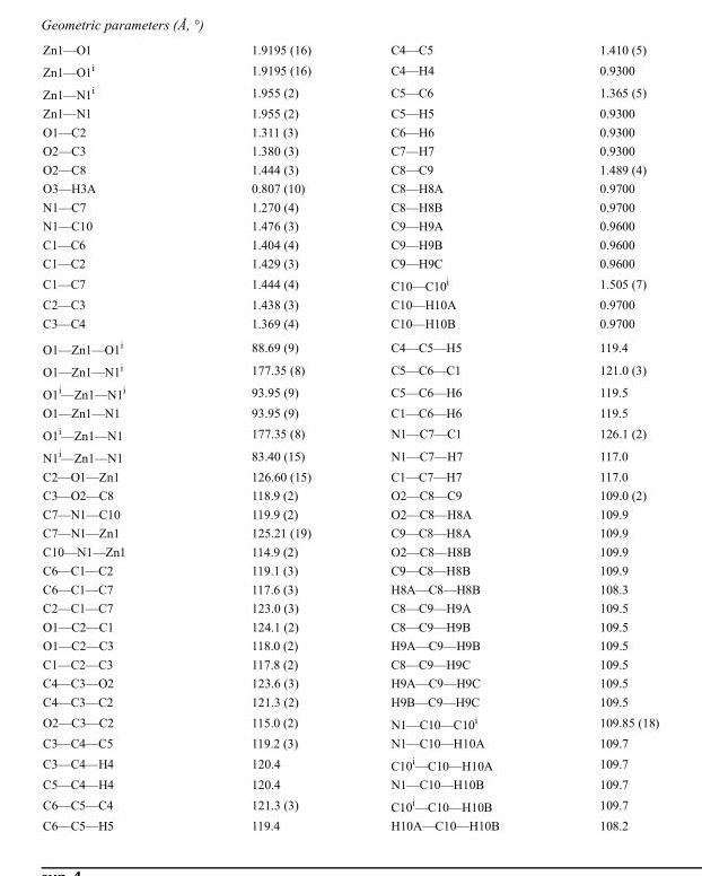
<table><tbody><tr><td>Zn1—O1</td><td>1.9195 (16)</td><td>C4—C5</td><td>1.410 (5)</td></tr><tr><td>Zn1—O1<sup>i</sup></td><td>1.9195 (16)</td><td>C4—H4</td><td>0.9300</td></tr><tr><td>Zn1—N1<sup>i</sup></td><td>1.955 (2)</td><td>C5—C6</td><td>1.365 (5)</td></tr><tr><td>Zn1—N1</td><td>1.955 (2)</td><td>C5—H5</td><td>0.9300</td></tr><tr><td>O1—C2</td><td>1.311 (3)</td><td>C6—H6</td><td>0.9300</td></tr><tr><td>O2—C3</td><td>1.380 (3)</td><td>C7—H7</td><td>0.9300</td></tr><tr><td>O2—C8</td><td>1.444 (3)</td><td>C8—C9</td><td>1.489 (4)</td></tr><tr><td>O3—H3A</td><td>0.807 (10)</td><td>C8—H8A</td><td>0.9700</td></tr><tr><td>N1—C7</td><td>1.270 (4)</td><td>C8—H8B</td><td>0.9700</td></tr><tr><td>N1—C10</td><td>1.476 (3)</td><td>C9—H9A</td><td>0.9600</td></tr><tr><td>C1—C6</td><td>1.404 (4)</td><td>C9—H9B</td><td>0.9600</td></tr><tr><td>C1—C2</td><td>1.429 (3)</td><td>C9—H9C</td><td>0.9600</td></tr><tr><td>C1—C7</td><td>1.444 (4)</td><td>C10—C10<sup>i</sup></td><td>1.505 (7)</td></tr><tr><td>C2—C3</td><td>1.438 (3)</td><td>C10—H10A</td><td>0.9700</td></tr><tr><td>C3—C4</td><td>1.369 (4)</td><td>C10—H10B</td><td>0.9700</td></tr><tr><td>O1—Zn1—O1<sup>i</sup></td><td>88.69 (9)</td><td>C4—C5—H5</td><td>119.4</td></tr><tr><td>O1—Zn1—N1<sup>i</sup></td><td>177.35 (8)</td><td>C5—C6—C1</td><td>121.0 (3)</td></tr><tr><td>O1<sup>i</sup>—Zn1—N1<sup>i</sup></td><td>93.95 (9)</td><td>C5—C6—H6</td><td>119.5</td></tr><tr><td>O1—Zn1—N1</td><td>93.95 (9)</td><td>C1—C6—H6</td><td>119.5</td></tr><tr><td>O1<sup>i</sup>—Zn1—N1</td><td>177.35 (8)</td><td>N1—C7—C1</td><td>126.1 (2)</td></tr><tr><td>N1<sup>i</sup>—Zn1—N1</td><td>83.40 (15)</td><td>N1—C7—H7</td><td>117.0</td></tr><tr><td>C2—O1—Zn1</td><td>126.60 (15)</td><td>C1—C7—H7</td><td>117.0</td></tr><tr><td>C3—O2—C8</td><td>118.9 (2)</td><td>O2—C8—C9</td><td>109.0 (2)</td></tr><tr><td>C7—N1—C10</td><td>119.9 (2)</td><td>O2—C8—H8A</td><td>109.9</td></tr><tr><td>C7—N1—Zn1</td><td>125.21 (19)</td><td>C9—C8—H8A</td><td>109.9</td></tr><tr><td>C10—N1—Zn1</td><td>114.9 (2)</td><td>O2—C8—H8B</td><td>109.9</td></tr><tr><td>C6—C1—C2</td><td>119.1 (3)</td><td>C9—C8—H8B</td><td>109.9</td></tr><tr><td>C6—C1—C7</td><td>117.6 (3)</td><td>H8A—C8—H8B</td><td>108.3</td></tr><tr><td>C2—C1—C7</td><td>123.0 (3)</td><td>C8—C9—H9A</td><td>109.5</td></tr><tr><td>O1—C2—C1</td><td>124.1 (2)</td><td>C8—C9—H9B</td><td>109.5</td></tr><tr><td>O1—C2—C3</td><td>118.0 (2)</td><td>H9A—C9—H9B</td><td>109.5</td></tr><tr><td>C1—C2—C3</td><td>117.8 (2)</td><td>C8—C9—H9C</td><td>109.5</td></tr><tr><td>C4—C3—O2</td><td>123.6 (3)</td><td>H9A—C9—H9C</td><td>109.5</td></tr><tr><td>C4—C3—C2</td><td>121.3 (2)</td><td>H9B—C9—H9C</td><td>109.5</td></tr><tr><td>O2—C3—C2</td><td>115.0 (2)</td><td>N1—C10—C10<sup>i</sup></td><td>109.85 (18)</td></tr><tr><td>C3—C4—C5</td><td>119.2 (3)</td><td>N1—C10—H10A</td><td>109.7</td></tr><tr><td>C3—C4—H4</td><td>120.4</td><td>C10<sup>i</sup>—C10—H10A</td><td>109.7</td></tr><tr><td>C5—C4—H4</td><td>120.4</td><td>N1—C10—H10B</td><td>109.7</td></tr><tr><td>C6—C5—C4</td><td>121.3 (3)</td><td>C10<sup>i</sup>—C10—H10B</td><td>109.7</td></tr><tr><td>C6—C5—H5</td><td>119.4</td><td>H10A—C10—H10B</td><td>108.2</td></tr></tbody></table>